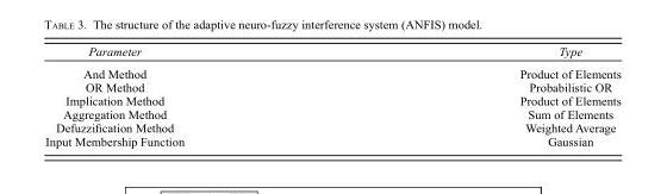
<table><thead><tr><td>Parameter</td><td>Type</td></tr></thead><tbody><tr><td>And Method</td><td>Product of Elements</td></tr><tr><td>OR Method</td><td>Probabilistic OR</td></tr><tr><td>Implication Method</td><td>Product of Elements</td></tr><tr><td>Aggregation Method</td><td>Sum of Elements</td></tr><tr><td>Defuzzification Method</td><td>Weighted Average</td></tr><tr><td>Input Membership Function</td><td>Gaussian</td></tr></tbody></table>